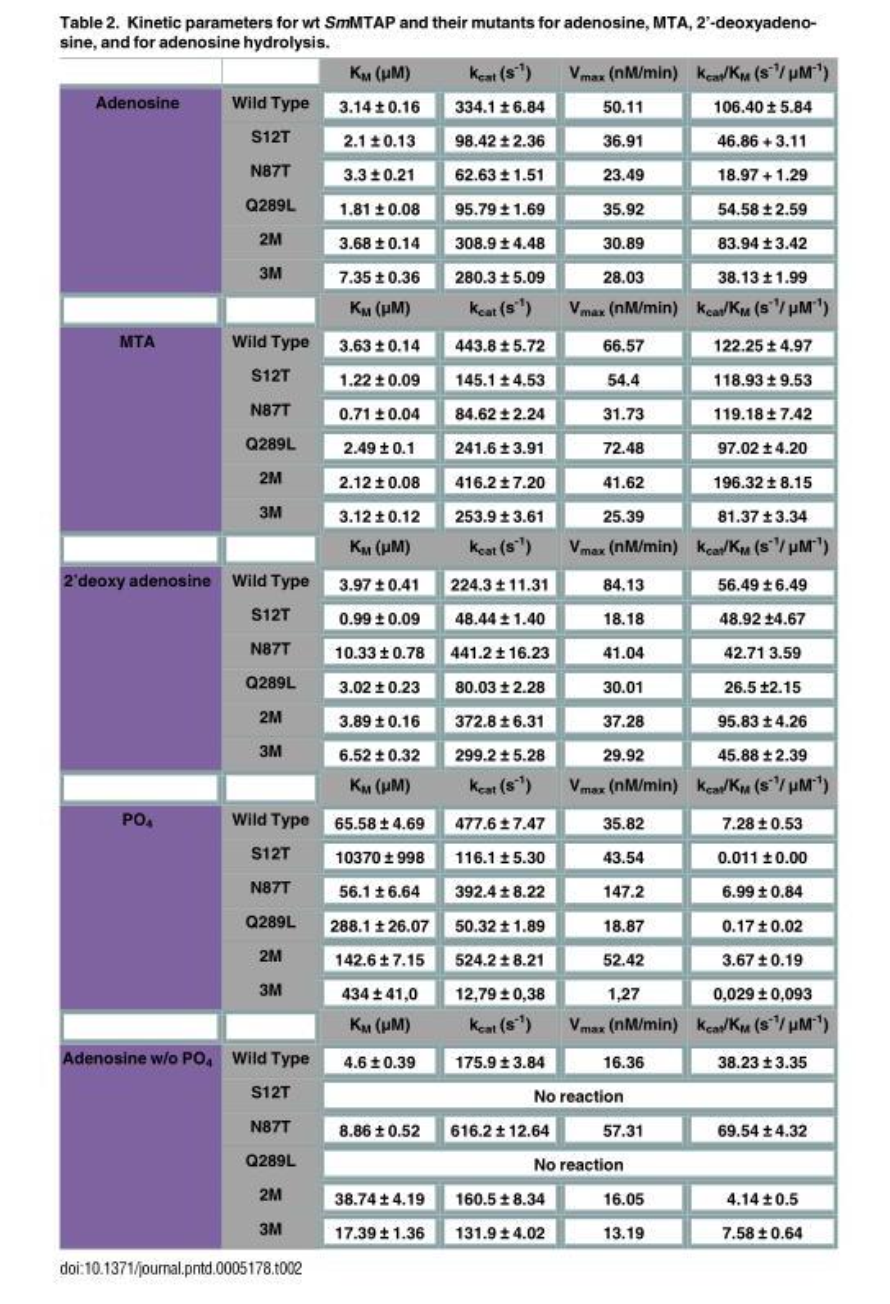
<table><thead><tr><td></td><td></td><td>K<sub>M</sub> (μM)</td><td>k<sub>cat</sub> (s<sup>-1</sup>)</td><td>V<sub>max</sub> (nM/min)</td><td>k<sub>cat</sub>/K<sub>M</sub> (s<sup>-1</sup>/ μM<sup>-1</sup>)</td></tr></thead><tbody><tr><td rowspan="7">Adenosine</td><td>Wild Type</td><td>3.14 ± 0.16</td><td>334.1 ± 6.84</td><td>50.11</td><td>106.40 ± 5.84</td></tr><tr><td>S12T</td><td>2.1 ± 0.13</td><td>98.42 ± 2.36</td><td>36.91</td><td>46.86 + 3.11</td></tr><tr><td>N87T</td><td>3.3 ± 0.21</td><td>62.63 ± 1.51</td><td>23.49</td><td>18.97 + 1.29</td></tr><tr><td>Q289L</td><td>1.81 ± 0.08</td><td>95.79 ± 1.69</td><td>35.92</td><td>54.58 ± 2.59</td></tr><tr><td>2M</td><td>3.68 ± 0.14</td><td>308.9 ± 4.48</td><td>30.89</td><td>83.94 ± 3.42</td></tr><tr><td>3M</td><td>7.35 ± 0.36</td><td>280.3 ± 5.09</td><td>28.03</td><td>38.13 ± 1.99</td></tr><tr><td></td><td>K<sub>M</sub> (μM)</td><td>k<sub>cat</sub> (s<sup>-1</sup>)</td><td>V<sub>max</sub> (nM/min)</td><td>k<sub>cat</sub>/K<sub>M</sub> (s<sup>-1</sup>/ μM<sup>-1</sup>)</td></tr><tr><td rowspan="7">MTA</td><td>Wild Type</td><td>3.63 ± 0.14</td><td>443.8 ± 5.72</td><td>66.57</td><td>122.25 ± 4.97</td></tr><tr><td>S12T</td><td>1.22 ± 0.09</td><td>145.1 ± 4.53</td><td>54.4</td><td>118.93 ± 9.53</td></tr><tr><td>N87T</td><td>0.71 ± 0.04</td><td>84.62 ± 2.24</td><td>31.73</td><td>119.18 ± 7.42</td></tr><tr><td>Q289L</td><td>2.49 ± 0.1</td><td>241.6 ± 3.91</td><td>72.48</td><td>97.02 ± 4.20</td></tr><tr><td>2M</td><td>2.12 ± 0.08</td><td>416.2 ± 7.20</td><td>41.62</td><td>196.32 ± 8.15</td></tr><tr><td>3M</td><td>3.12 ± 0.12</td><td>253.9 ± 3.61</td><td>25.39</td><td>81.37 ± 3.34</td></tr><tr><td></td><td>K<sub>M</sub> (μM)</td><td>k<sub>cat</sub> (s<sup>-1</sup>)</td><td>V<sub>max</sub> (nM/min)</td><td>k<sub>cat</sub>/K<sub>M</sub> (s<sup>-1</sup>/ μM<sup>-1</sup>)</td></tr><tr><td rowspan="7">2’deoxy adenosine</td><td>Wild Type</td><td>3.97 ± 0.41</td><td>224.3 ± 11.31</td><td>84.13</td><td>56.49 ± 6.49</td></tr><tr><td>S12T</td><td>0.99 ± 0.09</td><td>48.44 ± 1.40</td><td>18.18</td><td>48.92 ±4.67</td></tr><tr><td>N87T</td><td>10.33 ± 0.78</td><td>441.2 ± 16.23</td><td>41.04</td><td>42.71 3.59</td></tr><tr><td>Q289L</td><td>3.02 ± 0.23</td><td>80.03 ± 2.28</td><td>30.01</td><td>26.5 ±2.15</td></tr><tr><td>2M</td><td>3.89 ± 0.16</td><td>372.8 ± 6.31</td><td>37.28</td><td>95.83 ± 4.26</td></tr><tr><td>3M</td><td>6.52 ± 0.32</td><td>299.2 ± 5.28</td><td>29.92</td><td>45.88 ± 2.39</td></tr><tr><td></td><td>K<sub>M</sub> (μM)</td><td>k<sub>cat</sub> (s<sup>-1</sup>)</td><td>V<sub>max</sub> (nM/min)</td><td>k<sub>cat</sub>/K<sub>M</sub> (s<sup>-1</sup>/ μM<sup>-1</sup>)</td></tr><tr><td rowspan="7">PO<sub>4</sub></td><td>Wild Type</td><td>65.58 ± 4.69</td><td>477.6 ± 7.47</td><td>35.82</td><td>7.28 ± 0.53</td></tr><tr><td>S12T</td><td>10370 ± 998</td><td>116.1 ± 5.30</td><td>43.54</td><td>0.011 ± 0.00</td></tr><tr><td>N87T</td><td>56.1 ± 6.64</td><td>392.4 ± 8.22</td><td>147.2</td><td>6.99 ± 0.84</td></tr><tr><td>Q289L</td><td>288.1 ± 26.07</td><td>50.32 ± 1.89</td><td>18.87</td><td>0.17 ± 0.02</td></tr><tr><td>2M</td><td>142.6 ± 7.15</td><td>524.2 ± 8.21</td><td>52.42</td><td>3.67 ± 0.19</td></tr><tr><td>3M</td><td>434 ± 41,0</td><td>12,79 ± 0,38</td><td>1,27</td><td>0,029 ± 0,093</td></tr><tr><td></td><td>K<sub>M</sub> (μM)</td><td>k<sub>cat</sub> (s<sup>-1</sup>)</td><td>V<sub>max</sub> (nM/min)</td><td>k<sub>cat</sub>/K<sub>M</sub> (s<sup>-1</sup>/ μM<sup>-1</sup>)</td></tr><tr><td rowspan="6">Adenosine w/o PO<sub>4</sub></td><td>Wild Type</td><td>4.6 ± 0.39</td><td>175.9 ± 3.84</td><td>16.36</td><td>38.23 ± 3.35</td></tr><tr><td>S12T</td><td colspan="4">No reaction</td></tr><tr><td>N87T</td><td>8.86 ± 0.52</td><td>616.2 ± 12.64</td><td>57.31</td><td>69.54 ± 4.32</td></tr><tr><td>Q289L</td><td colspan="4">No reaction</td></tr><tr><td>2M</td><td>38.74 ± 4.19</td><td>160.5 ± 8.34</td><td>16.05</td><td>4.14 ± 0.5</td></tr><tr><td>3M</td><td>17.39 ± 1.36</td><td>131.9 ± 4.02</td><td>13.19</td><td>7.58 ± 0.64</td></tr></tbody></table>